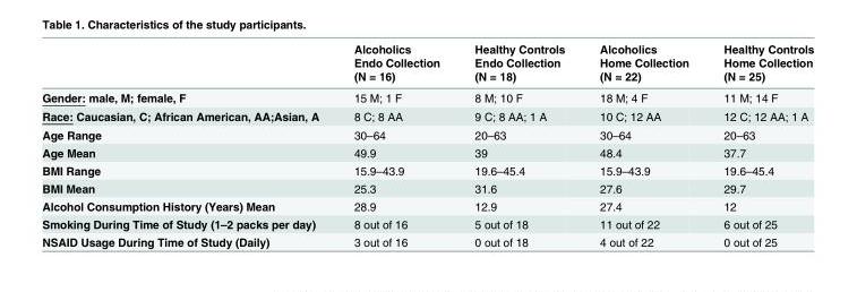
<table><thead><tr><td rowspan="3"></td><td rowspan="3">Alcoholics Endo Collection (N = 16)</td><td rowspan="3">Healthy Controls Endo Collection (N = 18)</td><td rowspan="3">Alcoholics Home Collection (N = 22)</td><td rowspan="3">Healthy Controls Home Collection (N = 25)</td></tr><tr></tr><tr></tr></thead><tbody><tr><td>Gender: male, M; female, F</td><td>15 M; 1 F</td><td>8 M; 10 F</td><td>18 M; 4 F</td><td>11 M; 14 F</td></tr><tr><td>Race: Caucasian, C; African American, AA;Asian, A</td><td>8 C; 8 AA</td><td>9 C; 8 AA; 1 A</td><td>10 C; 12 AA</td><td>12 C; 12 AA; 1 A</td></tr><tr><td>Age Range</td><td>30–64</td><td>20–63</td><td>30–64</td><td>20–63</td></tr><tr><td>Age Mean</td><td>49.9</td><td>39</td><td>48.4</td><td>37.7</td></tr><tr><td>BMI Range</td><td>15.9–43.9</td><td>19.6–45.4</td><td>15.9–43.9</td><td>19.6–45.4</td></tr><tr><td>BMI Mean</td><td>25.3</td><td>31.6</td><td>27.6</td><td>29.7</td></tr><tr><td>Alcohol Consumption History (Years) Mean</td><td>28.9</td><td>12.9</td><td>27.4</td><td>12</td></tr><tr><td>Smoking During Time of Study (1–2 packs per day)</td><td>8 out of 16</td><td>5 out of 18</td><td>11 out of 22</td><td>6 out of 25</td></tr><tr><td>NSAID Usage During Time of Study (Daily)</td><td>3 out of 16</td><td>0 out of 18</td><td>4 out of 22</td><td>0 out of 25</td></tr></tbody></table>